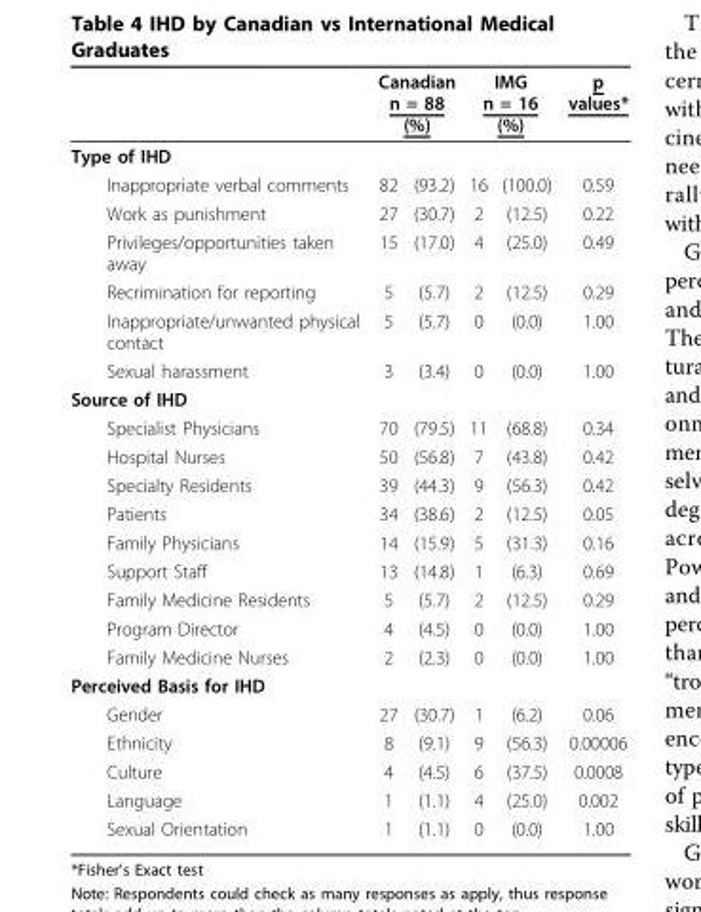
<table><thead><tr><td rowspan="2">Type of IHD</td><td colspan="2">Canadian n = 88 (%)</td><td colspan="2">IMG n = 16 (%)</td><td rowspan="2">p values*</td></tr><tr><td></td><td></td><td></td><td></td></tr></thead><tbody><tr><td>Inappropriate verbal comments</td><td>82</td><td>(93.2)</td><td>16</td><td>(100.0)</td><td>0.59</td></tr><tr><td>Work as punishment</td><td>27</td><td>(30.7)</td><td>2</td><td>(12.5)</td><td>0.22</td></tr><tr><td>Privileges/opportunities taken away</td><td>15</td><td>(17.0)</td><td>4</td><td>(25.0)</td><td>0.49</td></tr><tr><td>Recrimination for reporting</td><td>5</td><td>(5.7)</td><td>2</td><td>(12.5)</td><td>0.29</td></tr><tr><td>Inappropriate/unwanted physical contact</td><td>5</td><td>(5.7)</td><td>0</td><td>(0.0)</td><td>1.00</td></tr><tr><td>Sexual harassment</td><td>3</td><td>(3.4)</td><td>0</td><td>(0.0)</td><td>1.00</td></tr><tr><td colspan="6">Source of IHD</td></tr><tr><td>Specialist Physicians</td><td>70</td><td>(79.5)</td><td>11</td><td>(68.8)</td><td>0.34</td></tr><tr><td>Hospital Nurses</td><td>50</td><td>(56.8)</td><td>7</td><td>(43.8)</td><td>0.42</td></tr><tr><td>Specialty Residents</td><td>39</td><td>(44.3)</td><td>9</td><td>(56.3)</td><td>0.42</td></tr><tr><td>Patients</td><td>34</td><td>(38.6)</td><td>2</td><td>(12.5)</td><td>0.05</td></tr><tr><td>Family Physicians</td><td>14</td><td>(15.9)</td><td>5</td><td>(31.3)</td><td>0.16</td></tr><tr><td>Support Staff</td><td>13</td><td>(14.8)</td><td>1</td><td>(6.3)</td><td>0.69</td></tr><tr><td>Family Medicine Residents</td><td>5</td><td>(5.7)</td><td>2</td><td>(12.5)</td><td>0.29</td></tr><tr><td>Program Director</td><td>4</td><td>(4.5)</td><td>0</td><td>(0.0)</td><td>1.00</td></tr><tr><td>Family Medicine Nurses</td><td>2</td><td>(2.3)</td><td>0</td><td>(0.0)</td><td>1.00</td></tr><tr><td colspan="6">Perceived Basis for IHD</td></tr><tr><td>Gender</td><td>27</td><td>(30.7)</td><td>1</td><td>(6.2)</td><td>0.06</td></tr><tr><td>Ethnicity</td><td>8</td><td>(9.1)</td><td>9</td><td>(56.3)</td><td>0.00006</td></tr><tr><td>Culture</td><td>4</td><td>(4.5)</td><td>6</td><td>(37.5)</td><td>0.0008</td></tr><tr><td>Language</td><td>1</td><td>(1.1)</td><td>4</td><td>(25.0)</td><td>0.002</td></tr><tr><td>Sexual Orientation</td><td>1</td><td>(1.1)</td><td>0</td><td>(0.0)</td><td>1.00</td></tr></tbody></table>